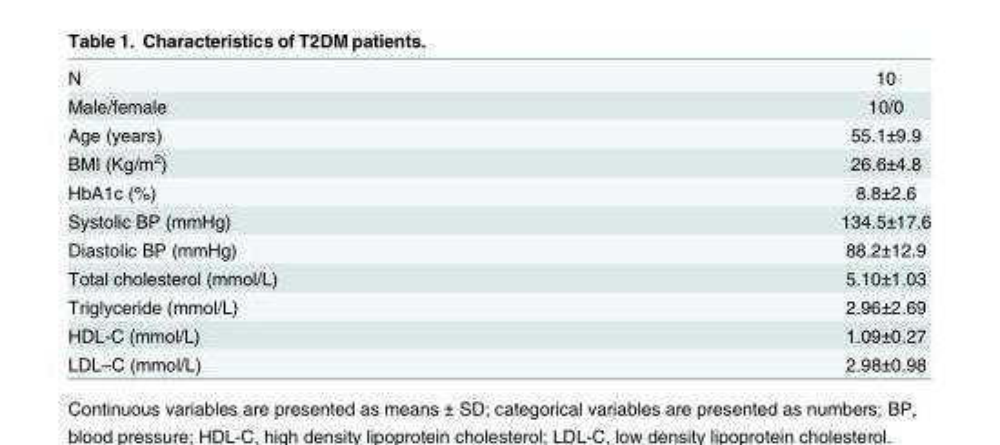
<table><tbody><tr><td>N</td><td>10</td></tr><tr><td>Male/female</td><td>10/0</td></tr><tr><td>Age (years)</td><td>55.1±9.9</td></tr><tr><td>BMI (Kg/m<sup>2</sup>)</td><td>26.6±4.8</td></tr><tr><td>HbA1c (%)</td><td>8.8±2.6</td></tr><tr><td>Systolic BP (mmHg)</td><td>134.5±17.6</td></tr><tr><td>Diastolic BP (mmHg)</td><td>88.2±12.9</td></tr><tr><td>Total cholesterol (mmol/L)</td><td>5.10±1.03</td></tr><tr><td>Triglyceride (mmol/L)</td><td>2.96±2.69</td></tr><tr><td>HDL-C (mmol/L)</td><td>1.09±0.27</td></tr><tr><td>LDL–C (mmol/L)</td><td>2.98±0.98</td></tr></tbody></table>